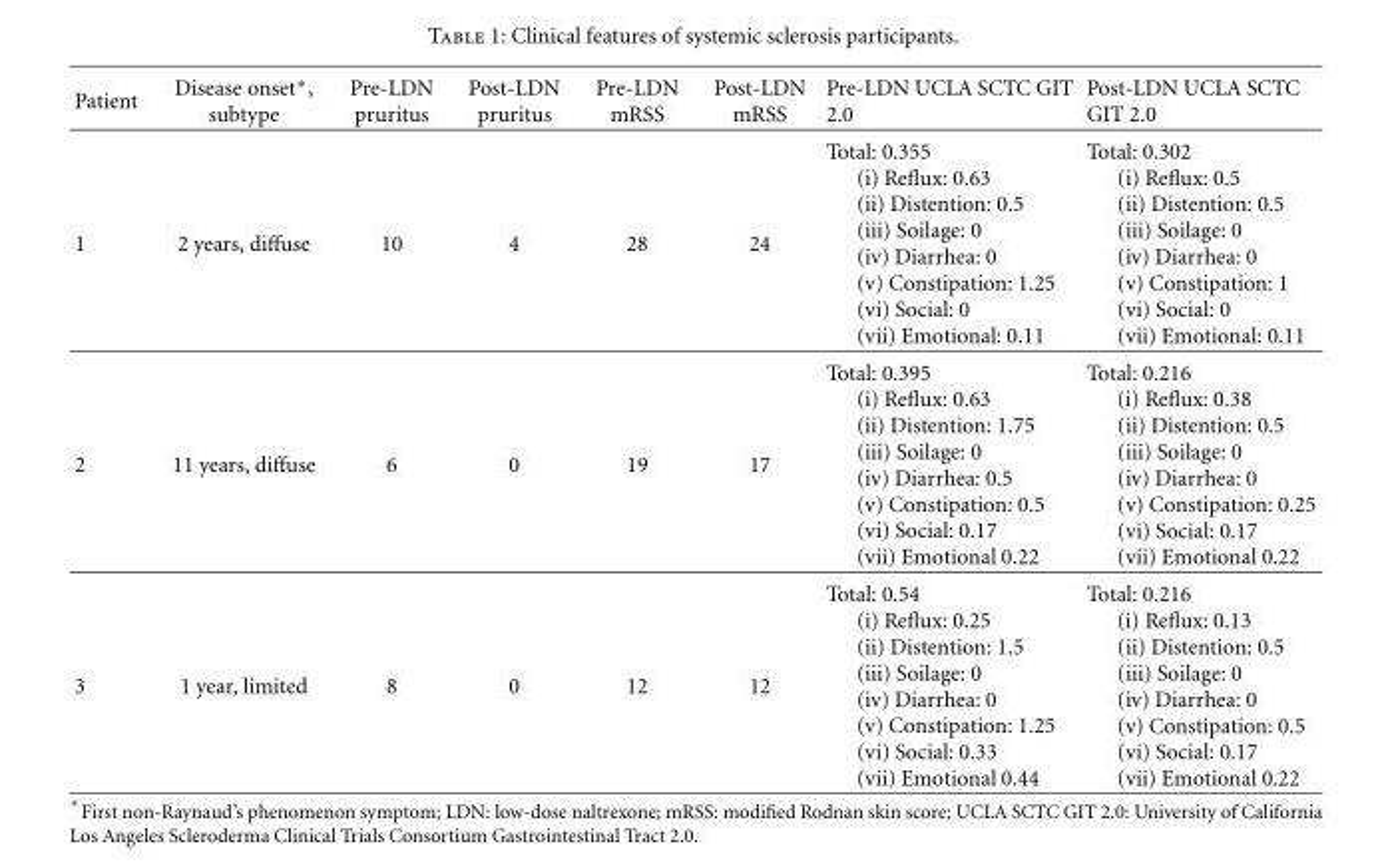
<table><thead><tr><td>Patient</td><td>Disease onset∗, subtype</td><td>Pre-LDN pruritus</td><td>Post-LDN pruritus</td><td>Pre-LDN mRSS</td><td>Post-LDN mRSS</td><td>Pre-LDN UCLA SCTC GIT 2.0</td><td>Post-LDN UCLA SCTC GIT 2.0</td></tr></thead><tbody><tr><td>1</td><td>2 years, diffuse</td><td>10</td><td>4</td><td>28</td><td>24</td><td>Total: 0.355 (i) Reflux: 0.63 (ii) Distention: 0.5 (iii) Soilage: 0 (iv) Diarrhea: 0 (v) Constipation: 1.25 (vi) Social: 0 (vii) Emotional: 0.11</td><td>Total: 0.302 (i) Reflux: 0.5 (ii) Distention: 0.5 (iii) Soilage: 0 (iv) Diarrhea: 0 (v) Constipation: 1 (vi) Social: 0 (vii) Emotional: 0.11</td></tr><tr><td>2</td><td>11 years, diffuse</td><td>6</td><td>0</td><td>19</td><td>17</td><td>Total: 0.395 (i) Reflux: 0.63 (ii) Distention: 1.75 (iii) Soilage: 0 (iv) Diarrhea: 0.5 (v) Constipation: 0.5 (vi) Social: 0.17 (vii) Emotional 0.22</td><td>Total: 0.216 (i) Reflux: 0.38 (ii) Distention: 0.5 (iii) Soilage: 0 (iv) Diarrhea: 0 (v) Constipation: 0.25 (vi) Social: 0.17 (vii) Emotional 0.22</td></tr><tr><td>3</td><td>1 year, limited</td><td>8</td><td>0</td><td>12</td><td>12</td><td>Total: 0.54 (i) Reflux: 0.25 (ii) Distention: 1.5 (iii) Soilage: 0 (iv) Diarrhea: 0 (v) Constipation: 1.25 (vi) Social: 0.33 (vii) Emotional 0.44</td><td>Total: 0.216 (i) Reflux: 0.13 (ii) Distention: 0.5 (iii) Soilage: 0 (iv) Diarrhea: 0 (v) Constipation: 0.5 (vi) Social: 0.17 (vii) Emotional 0.22</td></tr></tbody></table>